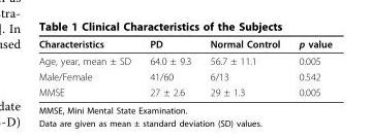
<table><thead><tr><td>Characteristics</td><td>PD</td><td>Normal Control</td><td>p value</td></tr></thead><tbody><tr><td>Age, year, mean ± SD</td><td>64.0 ± 9.3</td><td>56.7 ± 11.1</td><td>0.005</td></tr><tr><td>Male/Female</td><td>41/60</td><td>6/13</td><td>0.542</td></tr><tr><td>MMSE</td><td>27 ± 2.6</td><td>29 ± 1.3</td><td>0.005</td></tr></tbody></table>